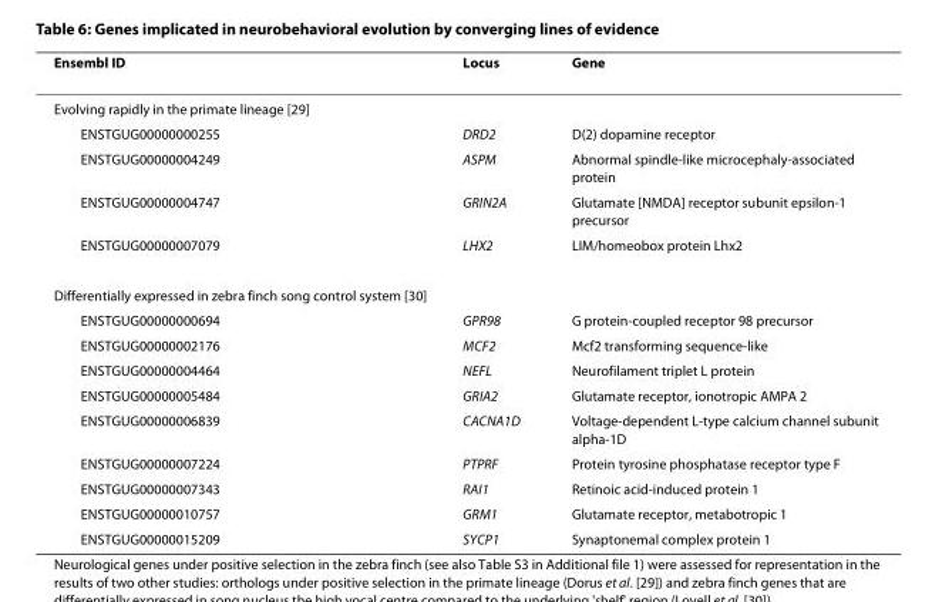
<table><thead><tr><td>Ensembl ID</td><td>Locus</td><td>Gene</td></tr></thead><tbody><tr><td colspan="3">Evolving rapidly in the primate lineage [29]</td></tr><tr><td>ENSTGUG00000000255</td><td>DRD2</td><td>D(2) dopamine receptor</td></tr><tr><td>ENSTGUG00000004249</td><td>ASPM</td><td>Abnormal spindle-like microcephaly-associated protein</td></tr><tr><td>ENSTGUG00000004747</td><td>GRIN2A</td><td>Glutamate [NMDA] receptor subunit epsilon-1 precursor</td></tr><tr><td>ENSTGUG00000007079</td><td>LHX2</td><td>LIM/homeobox protein Lhx2</td></tr><tr><td colspan="3">Differentially expressed in zebra finch song control system [30]</td></tr><tr><td>ENSTGUG00000000694</td><td>GPR98</td><td>G protein-coupled receptor 98 precursor</td></tr><tr><td>ENSTGUG00000002176</td><td>MCF2</td><td>Mcf2 transforming sequence-like</td></tr><tr><td>ENSTGUG00000004464</td><td>NEFL</td><td>Neurofilament triplet L protein</td></tr><tr><td>ENSTGUG00000005484</td><td>GRIA2</td><td>Glutamate receptor, ionotropic AMPA 2</td></tr><tr><td>ENSTGUG00000006839</td><td>CACNA1D</td><td>Voltage-dependent L-type calcium channel subunit alpha-1D</td></tr><tr><td>ENSTGUG00000007224</td><td>PTPRF</td><td>Protein tyrosine phosphatase receptor type F</td></tr><tr><td>ENSTGUG00000007343</td><td>RAI1</td><td>Retinoic acid-induced protein 1</td></tr><tr><td>ENSTGUG00000010757</td><td>GRM1</td><td>Glutamate receptor, metabotropic 1</td></tr><tr><td>ENSTGUG00000015209</td><td>SYCP1</td><td>Synaptonemal complex protein 1</td></tr></tbody></table>